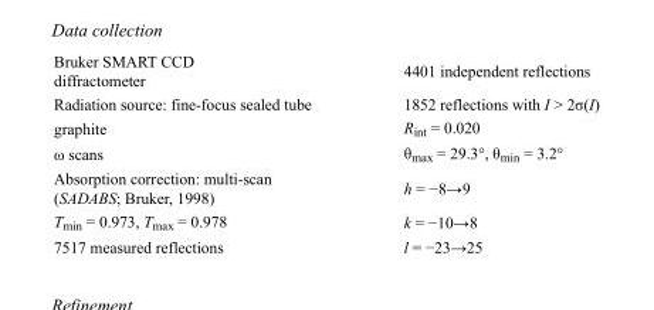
<table><tbody><tr><td>Bruker SMART CCD diffractometer</td><td>4401 independent reflections</td></tr><tr><td>Radiation source: fine-focus sealed tube</td><td>1852 reflections with I &gt; 2σ(I)</td></tr><tr><td>graphite</td><td>R<sub>int</sub> = 0.020</td></tr><tr><td>ω scans</td><td>θ<sub>max</sub> = 29.3°, θ<sub>min</sub> = 3.2°</td></tr><tr><td>Absorption correction: multi-scan (SADABS; Bruker, 1998)</td><td>h = −8→9</td></tr><tr><td>T<sub>min</sub> = 0.973, T<sub>max</sub> = 0.978</td><td>k = −10→8</td></tr><tr><td>7517 measured reflections</td><td>l = −23→25</td></tr></tbody></table>